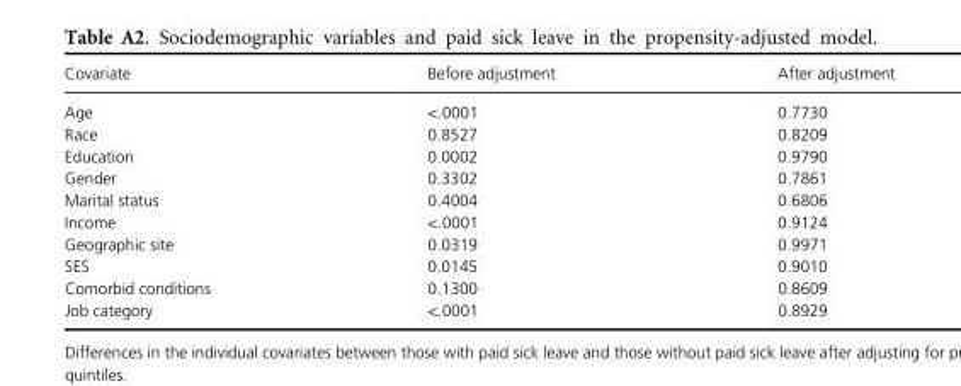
<table><thead><tr><td>Covariate</td><td>Before adjustment</td><td>After adjustment</td></tr></thead><tbody><tr><td>Age</td><td>&lt;.0001</td><td>0.7730</td></tr><tr><td>Race</td><td>0.8527</td><td>0.8209</td></tr><tr><td>Education</td><td>0.0002</td><td>0.9790</td></tr><tr><td>Gender</td><td>0.3302</td><td>0.7861</td></tr><tr><td>Marital status</td><td>0.4004</td><td>0.6806</td></tr><tr><td>Income</td><td>&lt;.0001</td><td>0.9124</td></tr><tr><td>Geographic site</td><td>0.0319</td><td>0.9971</td></tr><tr><td>SES</td><td>0.0145</td><td>0.9010</td></tr><tr><td>Comorbid conditions</td><td>0.1300</td><td>0.8609</td></tr><tr><td>Job category</td><td>&lt;.0001</td><td>0.8929</td></tr></tbody></table>